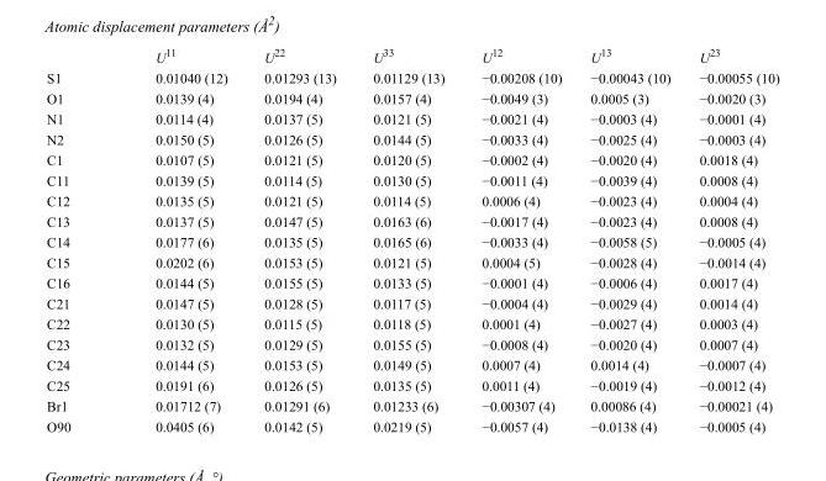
<table><thead><tr><td></td><td>U<sup>11</sup></td><td>U<sup>22</sup></td><td>U<sup>33</sup></td><td>U<sup>12</sup></td><td>U<sup>13</sup></td><td>U<sup>23</sup></td></tr></thead><tbody><tr><td>S1</td><td>0.01040 (12)</td><td>0.01293 (13)</td><td>0.01129 (13)</td><td>−0.00208 (10)</td><td>−0.00043 (10)</td><td>−0.00055 (10)</td></tr><tr><td>O1</td><td>0.0139 (4)</td><td>0.0194 (4)</td><td>0.0157 (4)</td><td>−0.0049 (3)</td><td>0.0005 (3)</td><td>−0.0020 (3)</td></tr><tr><td>N1</td><td>0.0114 (4)</td><td>0.0137 (5)</td><td>0.0121 (5)</td><td>−0.0021 (4)</td><td>−0.0003 (4)</td><td>−0.0001 (4)</td></tr><tr><td>N2</td><td>0.0150 (5)</td><td>0.0126 (5)</td><td>0.0144 (5)</td><td>−0.0033 (4)</td><td>−0.0025 (4)</td><td>−0.0003 (4)</td></tr><tr><td>C1</td><td>0.0107 (5)</td><td>0.0121 (5)</td><td>0.0120 (5)</td><td>−0.0002 (4)</td><td>−0.0020 (4)</td><td>0.0018 (4)</td></tr><tr><td>C11</td><td>0.0139 (5)</td><td>0.0114 (5)</td><td>0.0130 (5)</td><td>−0.0011 (4)</td><td>−0.0039 (4)</td><td>0.0008 (4)</td></tr><tr><td>C12</td><td>0.0135 (5)</td><td>0.0121 (5)</td><td>0.0114 (5)</td><td>0.0006 (4)</td><td>−0.0023 (4)</td><td>0.0004 (4)</td></tr><tr><td>C13</td><td>0.0137 (5)</td><td>0.0147 (5)</td><td>0.0163 (6)</td><td>−0.0017 (4)</td><td>−0.0023 (4)</td><td>0.0008 (4)</td></tr><tr><td>C14</td><td>0.0177 (6)</td><td>0.0135 (5)</td><td>0.0165 (6)</td><td>−0.0033 (4)</td><td>−0.0058 (5)</td><td>−0.0005 (4)</td></tr><tr><td>C15</td><td>0.0202 (6)</td><td>0.0153 (5)</td><td>0.0121 (5)</td><td>0.0004 (5)</td><td>−0.0028 (4)</td><td>−0.0014 (4)</td></tr><tr><td>C16</td><td>0.0144 (5)</td><td>0.0155 (5)</td><td>0.0133 (5)</td><td>−0.0001 (4)</td><td>−0.0006 (4)</td><td>0.0017 (4)</td></tr><tr><td>C21</td><td>0.0147 (5)</td><td>0.0128 (5)</td><td>0.0117 (5)</td><td>−0.0004 (4)</td><td>−0.0029 (4)</td><td>0.0014 (4)</td></tr><tr><td>C22</td><td>0.0130 (5)</td><td>0.0115 (5)</td><td>0.0118 (5)</td><td>0.0001 (4)</td><td>−0.0027 (4)</td><td>0.0003 (4)</td></tr><tr><td>C23</td><td>0.0132 (5)</td><td>0.0129 (5)</td><td>0.0155 (5)</td><td>−0.0008 (4)</td><td>−0.0020 (4)</td><td>0.0007 (4)</td></tr><tr><td>C24</td><td>0.0144 (5)</td><td>0.0153 (5)</td><td>0.0149 (5)</td><td>0.0007 (4)</td><td>0.0014 (4)</td><td>−0.0007 (4)</td></tr><tr><td>C25</td><td>0.0191 (6)</td><td>0.0126 (5)</td><td>0.0135 (5)</td><td>0.0011 (4)</td><td>−0.0019 (4)</td><td>−0.0012 (4)</td></tr><tr><td>Br1</td><td>0.01712 (7)</td><td>0.01291 (6)</td><td>0.01233 (6)</td><td>−0.00307 (4)</td><td>0.00086 (4)</td><td>−0.00021 (4)</td></tr><tr><td>O90</td><td>0.0405 (6)</td><td>0.0142 (5)</td><td>0.0219 (5)</td><td>−0.0057 (4)</td><td>−0.0138 (4)</td><td>−0.0005 (4)</td></tr></tbody></table>